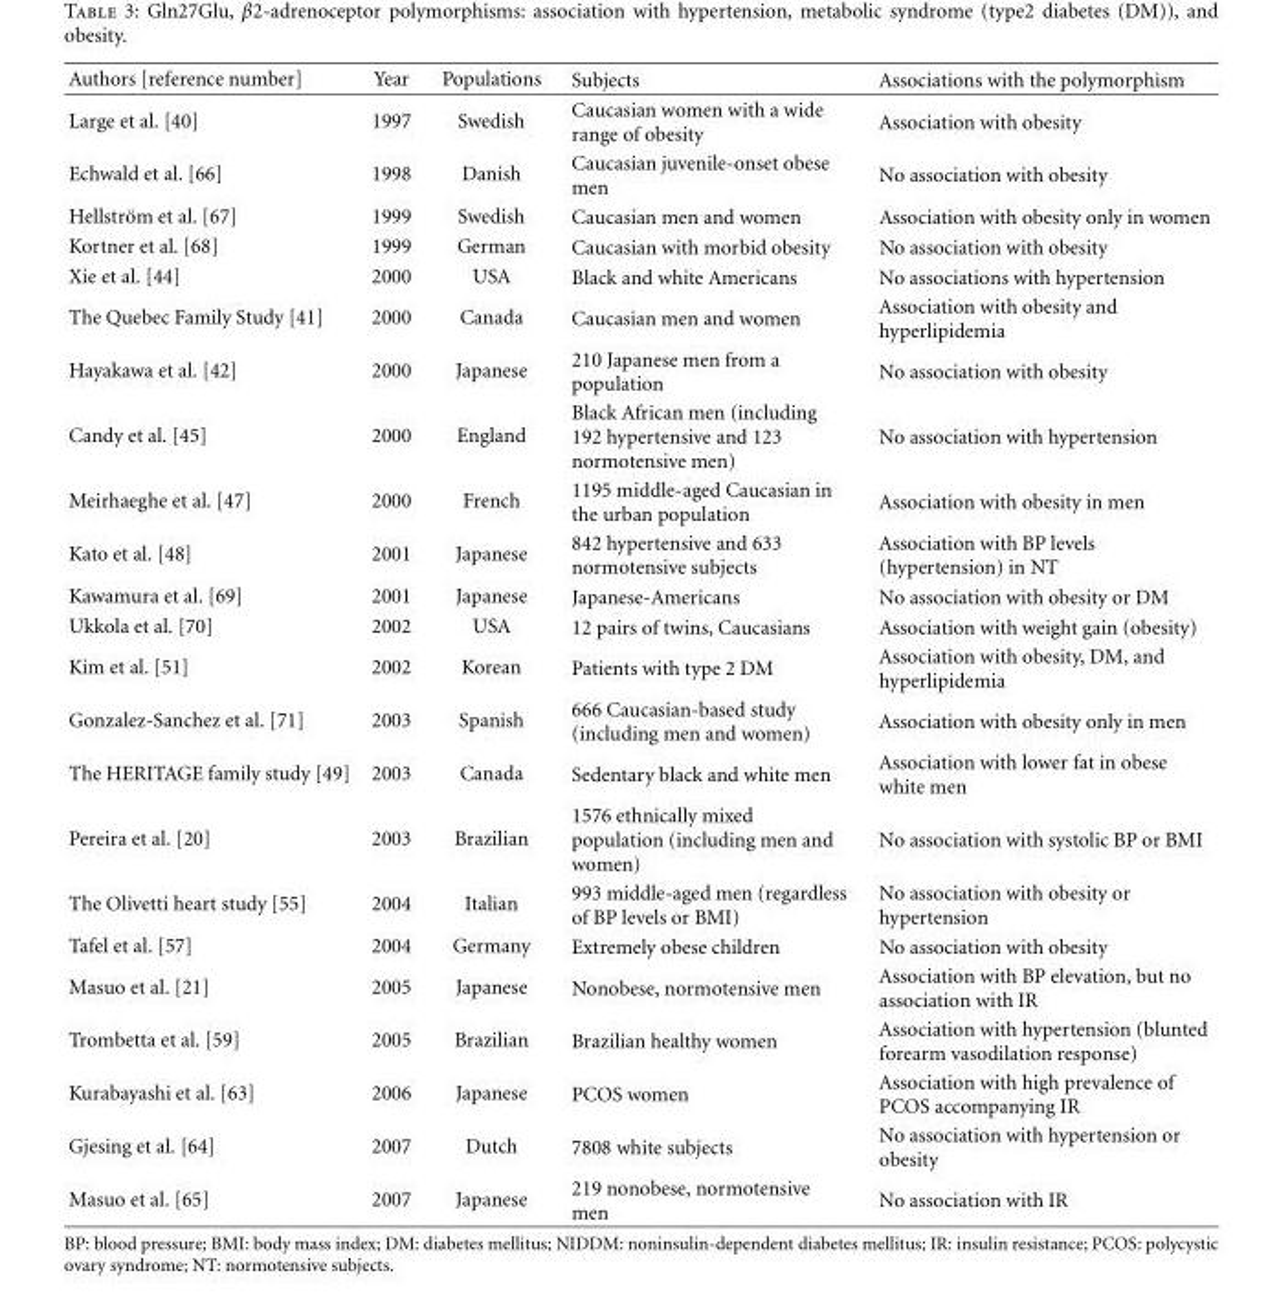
<table><thead><tr><td>Authors [reference number]</td><td>Year</td><td>Populations</td><td>Subjects</td><td>Associations with the polymorphism</td></tr></thead><tbody><tr><td>Large et al. [40]</td><td>1997</td><td>Swedish</td><td>Caucasian women with a wide range of obesity</td><td>Association with obesity</td></tr><tr><td>Echwald et al. [66]</td><td>1998</td><td>Danish</td><td>Caucasian juvenile-onset obese men</td><td>No association with obesity</td></tr><tr><td>Hellstr¨om et al. [67]</td><td>1999</td><td>Swedish</td><td>Caucasian men and women</td><td>Association with obesity only in women</td></tr><tr><td>Kortner et al. [68]</td><td>1999</td><td>German</td><td>Caucasian with morbid obesity</td><td>No association with obesity</td></tr><tr><td>Xie et al. [44]</td><td>2000</td><td>USA</td><td>Black and white Americans</td><td>No associations with hypertension</td></tr><tr><td>The Quebec Family Study [41]</td><td>2000</td><td>Canada</td><td>Caucasian men and women</td><td>Association with obesity and hyperlipidemia</td></tr><tr><td>Hayakawa et al. [42]</td><td>2000</td><td>Japanese</td><td>210 Japanese men from a population</td><td>No association with obesity</td></tr><tr><td>Candy et al. [45]</td><td>2000</td><td>England</td><td>Black African men (including 192 hypertensive and 123 normotensive men)</td><td>No association with hypertension</td></tr><tr><td>Meirhaeghe et al. [47]</td><td>2000</td><td>French</td><td>1195 middle-aged Caucasian in the urban population</td><td>Association with obesity in men</td></tr><tr><td>Kato et al. [48]</td><td>2001</td><td>Japanese</td><td>842 hypertensive and 633 normotensive subjects</td><td>Association with BP levels (hypertension) in NT</td></tr><tr><td>Kawamura et al. [69]</td><td>2001</td><td>Japanese</td><td>Japanese-Americans</td><td>No association with obesity or DM</td></tr><tr><td>Ukkola et al. [70]</td><td>2002</td><td>USA</td><td>12 pairs of twins, Caucasians</td><td>Association with weight gain (obesity)</td></tr><tr><td>Kim et al. [51]</td><td>2002</td><td>Korean</td><td>Patients with type 2 DM</td><td>Association with obesity, DM, and hyperlipidemia</td></tr><tr><td>Gonzalez-Sanchez et al. [71]</td><td>2003</td><td>Spanish</td><td>666 Caucasian-based study (including men and women)</td><td>Association with obesity only in men</td></tr><tr><td>The HERITAGE family study [49]</td><td>2003</td><td>Canada</td><td>Sedentary black and white men</td><td>Association with lower fat in obese white men</td></tr><tr><td>Pereira et al. [20]</td><td>2003</td><td>Brazilian</td><td>1576 ethnically mixed population (including men and women)</td><td>No association with systolic BP or BMI</td></tr><tr><td>The Olivetti heart study [55]</td><td>2004</td><td>Italian</td><td>993 middle-aged men (regardless of BP levels or BMI)</td><td>No association with obesity or hypertension</td></tr><tr><td>Tafel et al. [57]</td><td>2004</td><td>Germany</td><td>Extremely obese children</td><td>No association with obesity</td></tr><tr><td>Masuo et al. [21]</td><td>2005</td><td>Japanese</td><td>Nonobese, normotensive men</td><td>Association with BP elevation, but no association with IR</td></tr><tr><td>Trombetta et al. [59]</td><td>2005</td><td>Brazilian</td><td>Brazilian healthy women</td><td>Association with hypertension (blunted forearm vasodilation response)</td></tr><tr><td>Kurabayashi et al. [63]</td><td>2006</td><td>Japanese</td><td>PCOS women</td><td>Association with high prevalence of PCOS accompanying IR</td></tr><tr><td>Gjesing et al. [64]</td><td>2007</td><td>Dutch</td><td>7808 white subjects</td><td>No association with hypertension or obesity</td></tr><tr><td>Masuo et al. [65]</td><td>2007</td><td>Japanese</td><td>219 nonobese, normotensive men</td><td>No association with IR</td></tr></tbody></table>